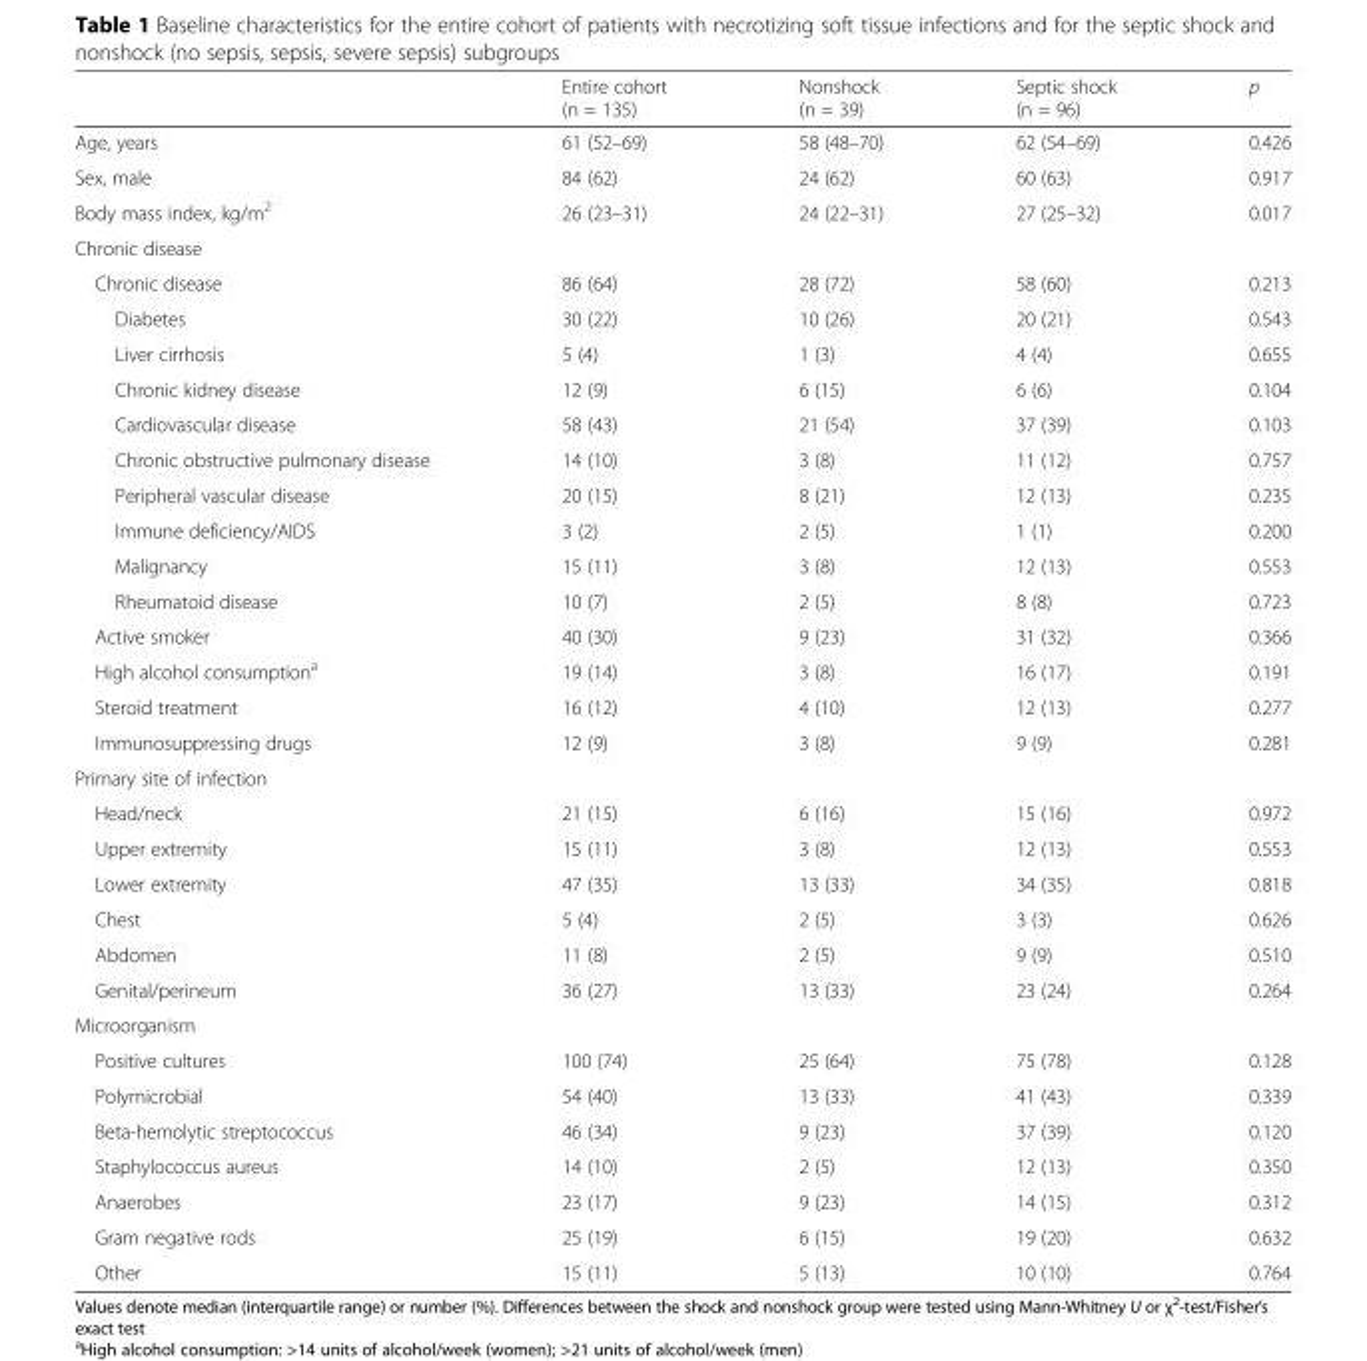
<table><thead><tr><td></td><td>Entire cohort (n = 135)</td><td>Nonshock (n = 39)</td><td>Septic shock (n = 96)</td><td>p</td></tr></thead><tbody><tr><td>Age, years</td><td>61 (52–69)</td><td>58 (48–70)</td><td>62 (54–69)</td><td>0.426</td></tr><tr><td>Sex, male</td><td>84 (62)</td><td>24 (62)</td><td>60 (63)</td><td>0.917</td></tr><tr><td>Body mass index, kg/m<sup>2</sup></td><td>26 (23–31)</td><td>24 (22–31)</td><td>27 (25–32)</td><td>0.017</td></tr><tr><td colspan="5">Chronic disease</td></tr><tr><td>Chronic disease</td><td>86 (64)</td><td>28 (72)</td><td>58 (60)</td><td>0.213</td></tr><tr><td>Diabetes</td><td>30 (22)</td><td>10 (26)</td><td>20 (21)</td><td>0.543</td></tr><tr><td>Liver cirrhosis</td><td>5 (4)</td><td>1 (3)</td><td>4 (4)</td><td>0.655</td></tr><tr><td>Chronic kidney disease</td><td>12 (9)</td><td>6 (15)</td><td>6 (6)</td><td>0.104</td></tr><tr><td>Cardiovascular disease</td><td>58 (43)</td><td>21 (54)</td><td>37 (39)</td><td>0.103</td></tr><tr><td>Chronic obstructive pulmonary disease</td><td>14 (10)</td><td>3 (8)</td><td>11 (12)</td><td>0.757</td></tr><tr><td>Peripheral vascular disease</td><td>20 (15)</td><td>8 (21)</td><td>12 (13)</td><td>0.235</td></tr><tr><td>Immune deficiency/AIDS</td><td>3 (2)</td><td>2 (5)</td><td>1 (1)</td><td>0.200</td></tr><tr><td>Malignancy</td><td>15 (11)</td><td>3 (8)</td><td>12 (13)</td><td>0.553</td></tr><tr><td>Rheumatoid disease</td><td>10 (7)</td><td>2 (5)</td><td>8 (8)</td><td>0.723</td></tr><tr><td>Active smoker</td><td>40 (30)</td><td>9 (23)</td><td>31 (32)</td><td>0.366</td></tr><tr><td>High alcohol consumption<sup>a</sup></td><td>19 (14)</td><td>3 (8)</td><td>16 (17)</td><td>0.191</td></tr><tr><td>Steroid treatment</td><td>16 (12)</td><td>4 (10)</td><td>12 (13)</td><td>0.277</td></tr><tr><td>Immunosuppressing drugs</td><td>12 (9)</td><td>3 (8)</td><td>9 (9)</td><td>0.281</td></tr><tr><td colspan="5">Primary site of infection</td></tr><tr><td>Head/neck</td><td>21 (15)</td><td>6 (16)</td><td>15 (16)</td><td>0.972</td></tr><tr><td>Upper extremity</td><td>15 (11)</td><td>3 (8)</td><td>12 (13)</td><td>0.553</td></tr><tr><td>Lower extremity</td><td>47 (35)</td><td>13 (33)</td><td>34 (35)</td><td>0.818</td></tr><tr><td>Chest</td><td>5 (4)</td><td>2 (5)</td><td>3 (3)</td><td>0.626</td></tr><tr><td>Abdomen</td><td>11 (8)</td><td>2 (5)</td><td>9 (9)</td><td>0.510</td></tr><tr><td>Genital/perineum</td><td>36 (27)</td><td>13 (33)</td><td>23 (24)</td><td>0.264</td></tr><tr><td colspan="5">Microorganism</td></tr><tr><td>Positive cultures</td><td>100 (74)</td><td>25 (64)</td><td>75 (78)</td><td>0.128</td></tr><tr><td>Polymicrobial</td><td>54 (40)</td><td>13 (33)</td><td>41 (43)</td><td>0.339</td></tr><tr><td>Beta-hemolytic streptococcus</td><td>46 (34)</td><td>9 (23)</td><td>37 (39)</td><td>0.120</td></tr><tr><td>Staphylococcus aureus</td><td>14 (10)</td><td>2 (5)</td><td>12 (13)</td><td>0.350</td></tr><tr><td>Anaerobes</td><td>23 (17)</td><td>9 (23)</td><td>14 (15)</td><td>0.312</td></tr><tr><td>Gram negative rods</td><td>25 (19)</td><td>6 (15)</td><td>19 (20)</td><td>0.632</td></tr><tr><td>Other</td><td>15 (11)</td><td>5 (13)</td><td>10 (10)</td><td>0.764</td></tr></tbody></table>